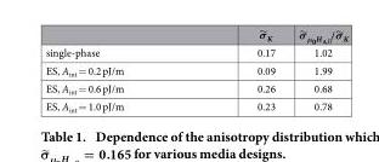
<table><tbody><tr><td>single-phase</td><td>0.17</td><td>1.02</td></tr><tr><td>ES, A<sub>int</sub> = 0.2 pJ/m</td><td>0.09</td><td>1.99</td></tr><tr><td>ES, A<sub>int</sub> = 0.6 pJ/m</td><td>0.26</td><td>0.68</td></tr><tr><td>ES, A<sub>int</sub> = 1.0 pJ/m</td><td>0.23</td><td>0.78</td></tr></tbody></table>